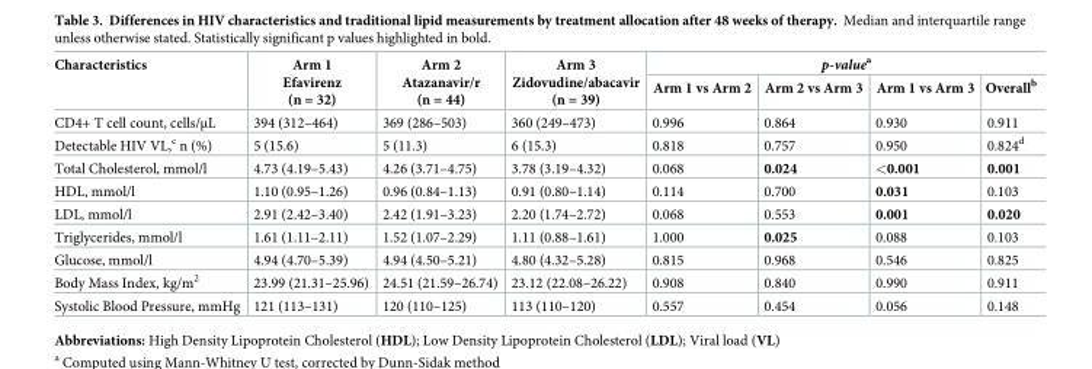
<table><thead><tr><td rowspan="2">Characteristics</td><td rowspan="2">Arm 1 Efavirenz (n = 32)</td><td rowspan="2">Arm 2 Atazanavir/r (n = 44)</td><td rowspan="2">Arm 3 Zidovudine/abacavir (n = 39)</td><td colspan="4">p-value<sup>a</sup></td></tr><tr><td>Arm 1 vs Arm 2</td><td>Arm 2 vs Arm 3</td><td>Arm 1 vs Arm 3</td><td>Overall<sup>b</sup></td></tr></thead><tbody><tr><td>CD4+ T cell count, cells/μL</td><td>394 (312–464)</td><td>369 (286–503)</td><td>360 (249–473)</td><td>0.996</td><td>0.864</td><td>0.930</td><td>0.911</td></tr><tr><td>Detectable HIV VL,<sup>c</sup> n (%)</td><td>5 (15.6)</td><td>5 (11.3)</td><td>6 (15.3)</td><td>0.818</td><td>0.757</td><td>0.950</td><td>0.824<sup>d</sup></td></tr><tr><td>Total Cholesterol, mmol/l</td><td>4.73 (4.19–5.43)</td><td>4.26 (3.71–4.75)</td><td>3.78 (3.19–4.32)</td><td>0.068</td><td>0.024</td><td>&lt;0.001</td><td>0.001</td></tr><tr><td>HDL, mmol/l</td><td>1.10 (0.95–1.26)</td><td>0.96 (0.84–1.13)</td><td>0.91 (0.80–1.14)</td><td>0.114</td><td>0.700</td><td>0.031</td><td>0.103</td></tr><tr><td>LDL, mmol/l</td><td>2.91 (2.42–3.40)</td><td>2.42 (1.91–3.23)</td><td>2.20 (1.74–2.72)</td><td>0.068</td><td>0.553</td><td>0.001</td><td>0.020</td></tr><tr><td>Triglycerides, mmol/l</td><td>1.61 (1.11–2.11)</td><td>1.52 (1.07–2.29)</td><td>1.11 (0.88–1.61)</td><td>1.000</td><td>0.025</td><td>0.088</td><td>0.103</td></tr><tr><td>Glucose, mmol/l</td><td>4.94 (4.70–5.39)</td><td>4.94 (4.50–5.21)</td><td>4.80 (4.32–5.28)</td><td>0.815</td><td>0.968</td><td>0.546</td><td>0.825</td></tr><tr><td>Body Mass Index, kg/m<sup>2</sup></td><td>23.99 (21.31–25.96)</td><td>24.51 (21.59–26.74)</td><td>23.12 (22.08–26.22)</td><td>0.908</td><td>0.840</td><td>0.990</td><td>0.911</td></tr><tr><td>Systolic Blood Pressure, mmHg</td><td>121 (113–131)</td><td>120 (110–125)</td><td>113 (110–120)</td><td>0.557</td><td>0.454</td><td>0.056</td><td>0.148</td></tr></tbody></table>